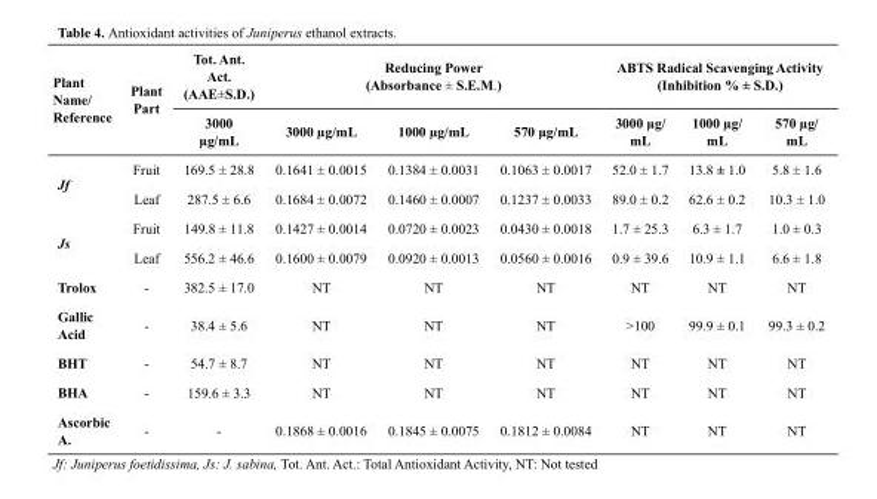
<table><thead><tr><td rowspan="2">Plant Name/ Reference</td><td rowspan="2">Plant Part</td><td rowspan="2">Tot. Ant. Act. (AAE±S.D.) 3000 µg/mL</td><td colspan="3">Reducing Power (Absorbance ± S.E.M.)</td><td colspan="3">ABTS Radical Scavenging Activity (Inhibition % ± S.D.)</td></tr><tr><td>3000 µg/mL</td><td>1000 µg/mL</td><td>570 µg/mL</td><td>3000 µg/ mL</td><td>1000 µg/ mL</td><td>570 µg/ mL</td></tr></thead><tbody><tr><td rowspan="2">Jf</td><td>Fruit</td><td>169.5 ± 28.8</td><td>0.1641 ± 0.0015</td><td>0.1384 ± 0.0031</td><td>0.1063 ± 0.0017</td><td>52.0 ± 1.7</td><td>13.8 ± 1.0</td><td>5.8 ± 1.6</td></tr><tr><td>Leaf</td><td>287.5 ± 6.6</td><td>0.1684 ± 0.0072</td><td>0.1460 ± 0.0007</td><td>0.1237 ± 0.0033</td><td>89.0 ± 0.2</td><td>62.6 ± 0.2</td><td>10.3 ± 1.0</td></tr><tr><td rowspan="2">Js</td><td>Fruit</td><td>149.8 ± 11.8</td><td>0.1427 ± 0.0014</td><td>0.0720 ± 0.0023</td><td>0.0430 ± 0.0018</td><td>1.7 ± 25.3</td><td>6.3 ± 1.7</td><td>1.0 ± 0.3</td></tr><tr><td>Leaf</td><td>556.2 ± 46.6</td><td>0.1600 ± 0.0079</td><td>0.0920 ± 0.0013</td><td>0.0560 ± 0.0016</td><td>0.9 ± 39.6</td><td>10.9 ± 1.1</td><td>6.6 ± 1.8</td></tr><tr><td>Trolox</td><td>-</td><td>382.5 ± 17.0</td><td>NT</td><td>NT</td><td>NT</td><td>NT</td><td>NT</td><td>NT</td></tr><tr><td>Gallic Acid</td><td>-</td><td>38.4 ± 5.6</td><td>NT</td><td>NT</td><td>NT</td><td>&gt;100</td><td>99.9 ± 0.1</td><td>99.3 ± 0.2</td></tr><tr><td>BHT</td><td>-</td><td>54.7 ± 8.7</td><td>NT</td><td>NT</td><td>NT</td><td>NT</td><td>NT</td><td>NT</td></tr><tr><td>BHA</td><td>-</td><td>159.6 ± 3.3</td><td>NT</td><td>NT</td><td>NT</td><td>NT</td><td>NT</td><td>NT</td></tr><tr><td>Ascorbic A.</td><td>-</td><td>-</td><td>0.1868 ± 0.0016</td><td>0.1845 ± 0.0075</td><td>0.1812 ± 0.0084</td><td>NT</td><td>NT</td><td>NT</td></tr></tbody></table>